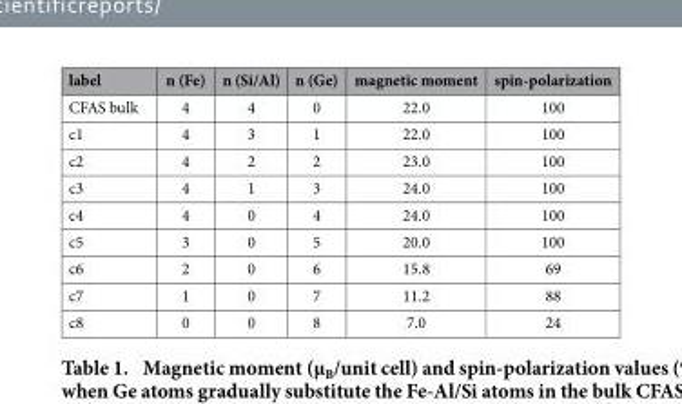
<table><thead><tr><td>label</td><td>n (Fe)</td><td>n (Si/Al)</td><td>n (Ge)</td><td>magnetic moment</td><td>spin-polarization</td></tr></thead><tbody><tr><td>CFAS bulk</td><td>4</td><td>4</td><td>0</td><td>22.0</td><td>100</td></tr><tr><td>c1</td><td>4</td><td>3</td><td>1</td><td>22.0</td><td>100</td></tr><tr><td>c2</td><td>4</td><td>2</td><td>2</td><td>23.0</td><td>100</td></tr><tr><td>c3</td><td>4</td><td>1</td><td>3</td><td>24.0</td><td>100</td></tr><tr><td>c4</td><td>4</td><td>0</td><td>4</td><td>24.0</td><td>100</td></tr><tr><td>c5</td><td>3</td><td>0</td><td>5</td><td>20.0</td><td>100</td></tr><tr><td>c6</td><td>2</td><td>0</td><td>6</td><td>15.8</td><td>69</td></tr><tr><td>c7</td><td>1</td><td>0</td><td>7</td><td>11.2</td><td>88</td></tr><tr><td>c8</td><td>0</td><td>0</td><td>8</td><td>7.0</td><td>24</td></tr></tbody></table>